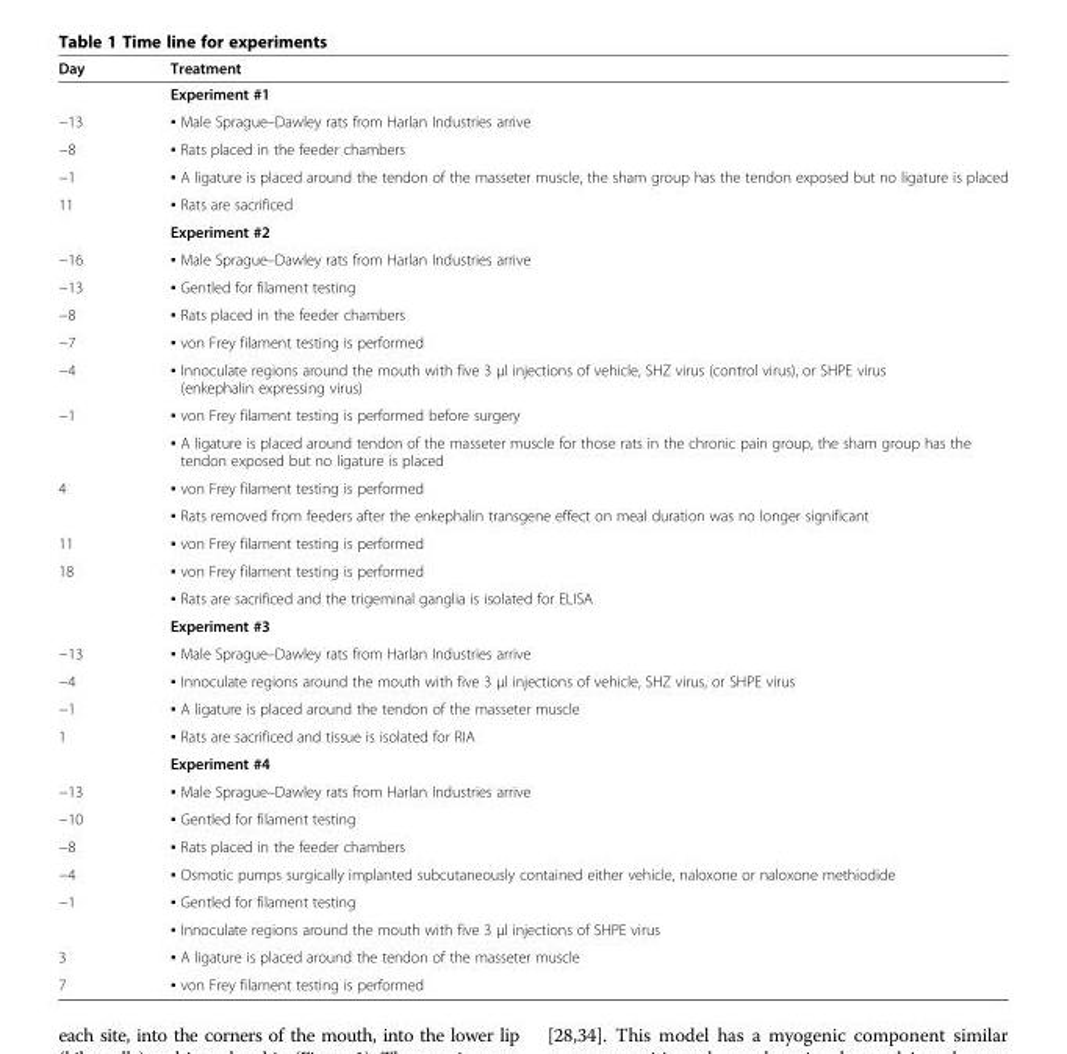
<table><thead><tr><td>Day</td><td>Treatment</td></tr></thead><tbody><tr><td></td><td>Experiment #1</td></tr><tr><td>−13</td><td>▪ Male Sprague–Dawley rats from Harlan Industries arrive</td></tr><tr><td>−8</td><td>▪ Rats placed in the feeder chambers</td></tr><tr><td>−1</td><td>▪ A ligature is placed around the tendon of the masseter muscle, the sham group has the tendon exposed but no ligature is placed</td></tr><tr><td rowspan="2">11</td><td>▪ Rats are sacrificed</td></tr><tr><td>Experiment #2</td></tr><tr><td>−16</td><td>▪ Male Sprague–Dawley rats from Harlan Industries arrive</td></tr><tr><td>−13</td><td>▪ Gentled for filament testing</td></tr><tr><td>−8</td><td>▪ Rats placed in the feeder chambers</td></tr><tr><td>−7</td><td>▪ von Frey filament testing is performed</td></tr><tr><td>−4</td><td>▪ Innoculate regions around the mouth with five 3 μl injections of vehicle, SHZ virus (control virus), or SHPE virus (enkephalin expressing virus)</td></tr><tr><td rowspan="2">−1</td><td>▪ von Frey filament testing is performed before surgery</td></tr><tr><td>▪ A ligature is placed around tendon of the masseter muscle for those rats in the chronic pain group, the sham group has the tendon exposed but no ligature is placed</td></tr><tr><td rowspan="2">4</td><td>▪ von Frey filament testing is performed</td></tr><tr><td>▪ Rats removed from feeders after the enkephalin transgene effect on meal duration was no longer significant</td></tr><tr><td>11</td><td>▪ von Frey filament testing is performed</td></tr><tr><td rowspan="3">18</td><td>▪ von Frey filament testing is performed</td></tr><tr><td>▪ Rats are sacrificed and the trigeminal ganglia is isolated for ELISA</td></tr><tr><td>Experiment #3</td></tr><tr><td>−13</td><td>▪ Male Sprague–Dawley rats from Harlan Industries arrive</td></tr><tr><td>−4</td><td>▪ Innoculate regions around the mouth with five 3 μl injections of vehicle, SHZ virus, or SHPE virus</td></tr><tr><td>−1</td><td>▪ A ligature is placed around the tendon of the masseter muscle</td></tr><tr><td rowspan="2">1</td><td>▪ Rats are sacrificed and tissue is isolated for RIA</td></tr><tr><td>Experiment #4</td></tr><tr><td>−13</td><td>▪ Male Sprague–Dawley rats from Harlan Industries arrive</td></tr><tr><td>−10</td><td>▪ Gentled for filament testing</td></tr><tr><td>−8</td><td>▪ Rats placed in the feeder chambers</td></tr><tr><td>−4</td><td>▪ Osmotic pumps surgically implanted subcutaneously contained either vehicle, naloxone or naloxone methiodide</td></tr><tr><td rowspan="2">−1</td><td>▪ Gentled for filament testing</td></tr><tr><td>▪ Innoculate regions around the mouth with five 3 μl injections of SHPE virus</td></tr><tr><td>3</td><td>▪ A ligature is placed around the tendon of the masseter muscle</td></tr><tr><td>7</td><td>▪ von Frey filament testing is performed</td></tr></tbody></table>